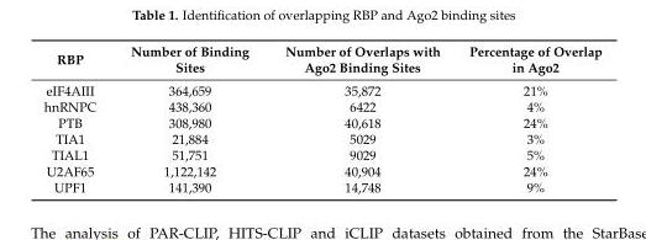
<table><thead><tr><td>RBP</td><td>Number of Binding Sites</td><td>Number of Overlaps with Ago2 Binding Sites</td><td>Percentage of Overlap in Ago2</td></tr></thead><tbody><tr><td>eIF4AIII</td><td>364,659</td><td>35,872</td><td>21%</td></tr><tr><td>hnRNPC</td><td>438,360</td><td>6422</td><td>4%</td></tr><tr><td>PTB</td><td>308,980</td><td>40,618</td><td>24%</td></tr><tr><td>TIA1</td><td>21,884</td><td>5029</td><td>3%</td></tr><tr><td>TIAL1</td><td>51,751</td><td>9029</td><td>5%</td></tr><tr><td>U2AF65</td><td>1,122,142</td><td>40,904</td><td>24%</td></tr><tr><td>UPF1</td><td>141,390</td><td>14,748</td><td>9%</td></tr></tbody></table>